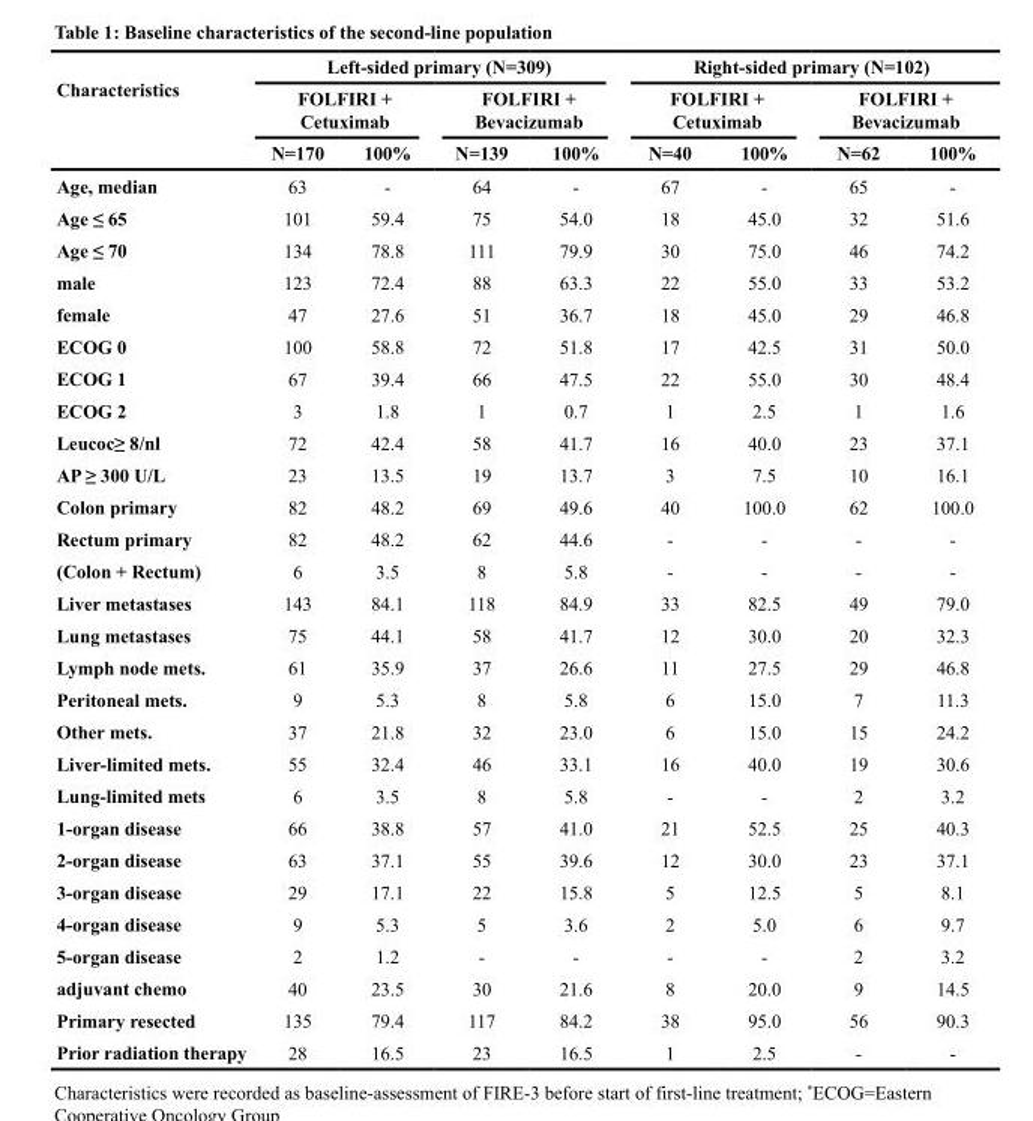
<table><thead><tr><td rowspan="3">Characteristics</td><td colspan="4">Left-sided primary (N=309)</td><td colspan="4">Right-sided primary (N=102)</td></tr><tr><td colspan="2">FOLFIRI + Cetuximab</td><td colspan="2">FOLFIRI + Bevacizumab</td><td colspan="2">FOLFIRI + Cetuximab</td><td colspan="2">FOLFIRI + Bevacizumab</td></tr><tr><td>N=170</td><td>100%</td><td>N=139</td><td>100%</td><td>N=40</td><td>100%</td><td>N=62</td><td>100%</td></tr></thead><tbody><tr><td>Age, median</td><td>63</td><td>-</td><td>64</td><td>-</td><td>67</td><td>-</td><td>65</td><td>-</td></tr><tr><td>Age ≤ 65</td><td>101</td><td>59.4</td><td>75</td><td>54.0</td><td>18</td><td>45.0</td><td>32</td><td>51.6</td></tr><tr><td>Age ≤ 70</td><td>134</td><td>78.8</td><td>111</td><td>79.9</td><td>30</td><td>75.0</td><td>46</td><td>74.2</td></tr><tr><td>male</td><td>123</td><td>72.4</td><td>88</td><td>63.3</td><td>22</td><td>55.0</td><td>33</td><td>53.2</td></tr><tr><td>female</td><td>47</td><td>27.6</td><td>51</td><td>36.7</td><td>18</td><td>45.0</td><td>29</td><td>46.8</td></tr><tr><td>ECOG 0</td><td>100</td><td>58.8</td><td>72</td><td>51.8</td><td>17</td><td>42.5</td><td>31</td><td>50.0</td></tr><tr><td>ECOG 1</td><td>67</td><td>39.4</td><td>66</td><td>47.5</td><td>22</td><td>55.0</td><td>30</td><td>48.4</td></tr><tr><td>ECOG 2</td><td>3</td><td>1.8</td><td>1</td><td>0.7</td><td>1</td><td>2.5</td><td>1</td><td>1.6</td></tr><tr><td>Leucoc≥ 8/nl</td><td>72</td><td>42.4</td><td>58</td><td>41.7</td><td>16</td><td>40.0</td><td>23</td><td>37.1</td></tr><tr><td>AP ≥ 300 U/L</td><td>23</td><td>13.5</td><td>19</td><td>13.7</td><td>3</td><td>7.5</td><td>10</td><td>16.1</td></tr><tr><td>Colon primary</td><td>82</td><td>48.2</td><td>69</td><td>49.6</td><td>40</td><td>100.0</td><td>62</td><td>100.0</td></tr><tr><td>Rectum primary</td><td>82</td><td>48.2</td><td>62</td><td>44.6</td><td>-</td><td>-</td><td>-</td><td>-</td></tr><tr><td>(Colon + Rectum)</td><td>6</td><td>3.5</td><td>8</td><td>5.8</td><td>-</td><td>-</td><td>-</td><td>-</td></tr><tr><td>Liver metastases</td><td>143</td><td>84.1</td><td>118</td><td>84.9</td><td>33</td><td>82.5</td><td>49</td><td>79.0</td></tr><tr><td>Lung metastases</td><td>75</td><td>44.1</td><td>58</td><td>41.7</td><td>12</td><td>30.0</td><td>20</td><td>32.3</td></tr><tr><td>Lymph node mets.</td><td>61</td><td>35.9</td><td>37</td><td>26.6</td><td>11</td><td>27.5</td><td>29</td><td>46.8</td></tr><tr><td>Peritoneal mets.</td><td>9</td><td>5.3</td><td>8</td><td>5.8</td><td>6</td><td>15.0</td><td>7</td><td>11.3</td></tr><tr><td>Other mets.</td><td>37</td><td>21.8</td><td>32</td><td>23.0</td><td>6</td><td>15.0</td><td>15</td><td>24.2</td></tr><tr><td>Liver-limited mets.</td><td>55</td><td>32.4</td><td>46</td><td>33.1</td><td>16</td><td>40.0</td><td>19</td><td>30.6</td></tr><tr><td>Lung-limited mets</td><td>6</td><td>3.5</td><td>8</td><td>5.8</td><td>-</td><td>-</td><td>2</td><td>3.2</td></tr><tr><td>1-organ disease</td><td>66</td><td>38.8</td><td>57</td><td>41.0</td><td>21</td><td>52.5</td><td>25</td><td>40.3</td></tr><tr><td>2-organ disease</td><td>63</td><td>37.1</td><td>55</td><td>39.6</td><td>12</td><td>30.0</td><td>23</td><td>37.1</td></tr><tr><td>3-organ disease</td><td>29</td><td>17.1</td><td>22</td><td>15.8</td><td>5</td><td>12.5</td><td>5</td><td>8.1</td></tr><tr><td>4-organ disease</td><td>9</td><td>5.3</td><td>5</td><td>3.6</td><td>2</td><td>5.0</td><td>6</td><td>9.7</td></tr><tr><td>5-organ disease</td><td>2</td><td>1.2</td><td>-</td><td>-</td><td>-</td><td>-</td><td>2</td><td>3.2</td></tr><tr><td>adjuvant chemo</td><td>40</td><td>23.5</td><td>30</td><td>21.6</td><td>8</td><td>20.0</td><td>9</td><td>14.5</td></tr><tr><td>Primary resected</td><td>135</td><td>79.4</td><td>117</td><td>84.2</td><td>38</td><td>95.0</td><td>56</td><td>90.3</td></tr><tr><td>Prior radiation therapy</td><td>28</td><td>16.5</td><td>23</td><td>16.5</td><td>1</td><td>2.5</td><td>-</td><td>-</td></tr></tbody></table>